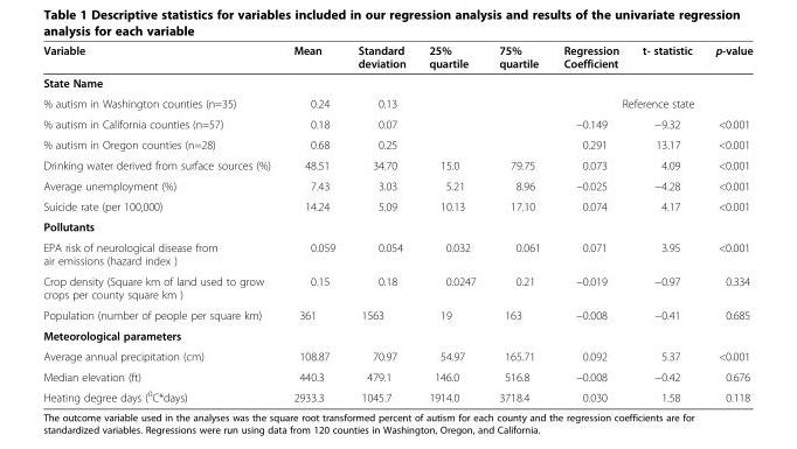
<table><thead><tr><td>Variable</td><td>Mean</td><td>Standard deviation</td><td>25% quartile</td><td>75% quartile</td><td>Regression Coefficient</td><td>t- statistic</td><td>p-value</td></tr></thead><tbody><tr><td colspan="8">State Name</td></tr><tr><td>% autism in Washington counties (n=35)</td><td>0.24</td><td>0.13</td><td></td><td></td><td></td><td>Reference state</td><td></td></tr><tr><td>% autism in California counties (n=57)</td><td>0.18</td><td>0.07</td><td></td><td></td><td>−0.149</td><td>−9.32</td><td>&lt;0.001</td></tr><tr><td>% autism in Oregon counties (n=28)</td><td>0.68</td><td>0.25</td><td></td><td></td><td>0.291</td><td>13.17</td><td>&lt;0.001</td></tr><tr><td>Drinking water derived from surface sources (%)</td><td>48.51</td><td>34.70</td><td>15.0</td><td>79.75</td><td>0.073</td><td>4.09</td><td>&lt;0.001</td></tr><tr><td>Average unemployment (%)</td><td>7.43</td><td>3.03</td><td>5.21</td><td>8.96</td><td>−0.025</td><td>−4.28</td><td>&lt;0.001</td></tr><tr><td>Suicide rate (per 100,000)</td><td>14.24</td><td>5.09</td><td>10.13</td><td>17.10</td><td>0.074</td><td>4.17</td><td>&lt;0.001</td></tr><tr><td colspan="8">Pollutants</td></tr><tr><td>EPA risk of neurological disease from air emissions (hazard index )</td><td>0.059</td><td>0.054</td><td>0.032</td><td>0.061</td><td>0.071</td><td>3.95</td><td>&lt;0.001</td></tr><tr><td>Crop density (Square km of land used to grow crops per county square km )</td><td>0.15</td><td>0.18</td><td>0.0247</td><td>0.21</td><td>−0.019</td><td>−0.97</td><td>0.334</td></tr><tr><td>Population (number of people per square km)</td><td>361</td><td>1563</td><td>19</td><td>163</td><td>−0.008</td><td>−0.41</td><td>0.685</td></tr><tr><td colspan="8">Meteorological parameters</td></tr><tr><td>Average annual precipitation (cm)</td><td>108.87</td><td>70.97</td><td>54.97</td><td>165.71</td><td>0.092</td><td>5.37</td><td>&lt;0.001</td></tr><tr><td>Median elevation (ft)</td><td>440.3</td><td>479.1</td><td>146.0</td><td>516.8</td><td>−0.008</td><td>−0.42</td><td>0.676</td></tr><tr><td>Heating degree days (<sup>0</sup>C*days)</td><td>2933.3</td><td>1045.7</td><td>1914.0</td><td>3718.4</td><td>0.030</td><td>1.58</td><td>0.118</td></tr></tbody></table>